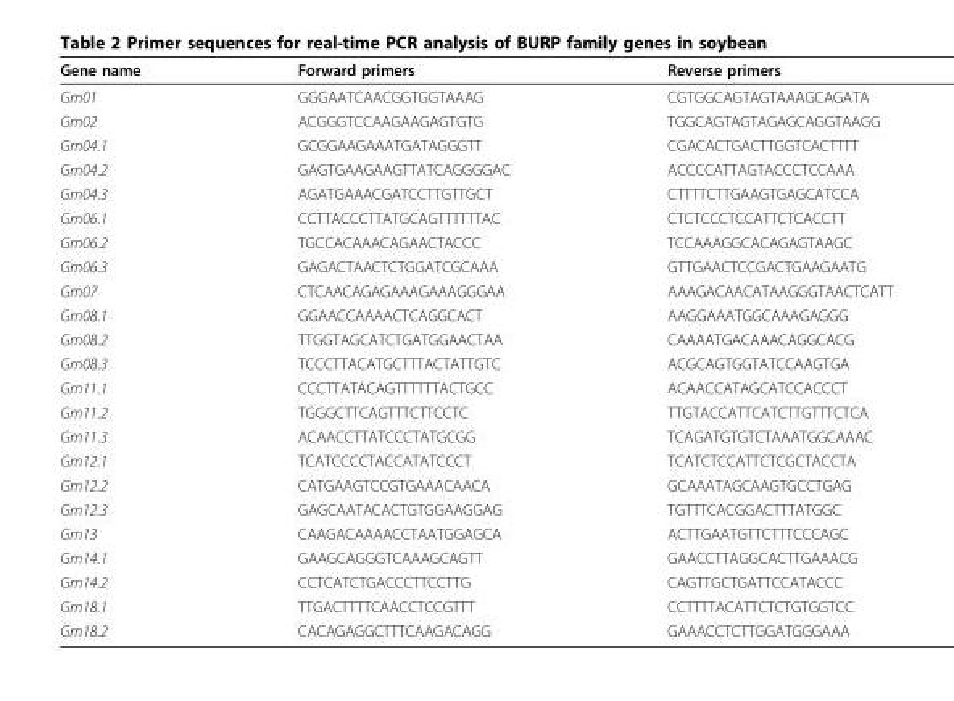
<table><thead><tr><td>Gene name</td><td>Forward primers</td><td>Reverse primers</td></tr></thead><tbody><tr><td>Gm01</td><td>GGGAATCAACGGTGGTAAAG</td><td>CGTGGCAGTAGTAAAGCAGATA</td></tr><tr><td>Gm02</td><td>ACGGGTCCAAGAAGAGTGTG</td><td>TGGCAGTAGTAGAGCAGGTAAGG</td></tr><tr><td>Gm04.1</td><td>GCGGAAGAAATGATAGGGTT</td><td>CGACACTGACTTGGTCACTTTT</td></tr><tr><td>Gm04.2</td><td>GAGTGAAGAAGTTATCAGGGGAC</td><td>ACCCCATTAGTACCCTCCAAA</td></tr><tr><td>Gm04.3</td><td>AGATGAAACGATCCTTGTTGCT</td><td>CTTTTCTTGAAGTGAGCATCCA</td></tr><tr><td>Gm06.1</td><td>CCTTACCCTTATGCAGTTTTTTAC</td><td>CTCTCCCTCCATTCTCACCTT</td></tr><tr><td>Gm06.2</td><td>TGCCACAAACAGAACTACCC</td><td>TCCAAAGGCACAGAGTAAGC</td></tr><tr><td>Gm06.3</td><td>GAGACTAACTCTGGATCGCAAA</td><td>GTTGAACTCCGACTGAAGAATG</td></tr><tr><td>Gm07</td><td>CTCAACAGAGAAAGAAAGGGAA</td><td>AAAGACAACATAAGGGTAACTCATT</td></tr><tr><td>Gm08.1</td><td>GGAACCAAAACTCAGGCACT</td><td>AAGGAAATGGCAAAGAGGG</td></tr><tr><td>Gm08.2</td><td>TTGGTAGCATCTGATGGAACTAA</td><td>CAAAATGACAAACAGGCACG</td></tr><tr><td>Gm08.3</td><td>TCCCTTACATGCTTTACTATTGTC</td><td>ACGCAGTGGTATCCAAGTGA</td></tr><tr><td>Gm11.1</td><td>CCCTTATACAGTTTTTTACTGCC</td><td>ACAACCATAGCATCCACCCT</td></tr><tr><td>Gm11.2</td><td>TGGGCTTCAGTTTCTTCCTC</td><td>TTGTACCATTCATCTTGTTTCTCA</td></tr><tr><td>Gm11.3</td><td>ACAACCTTATCCCTATGCGG</td><td>TCAGATGTGTCTAAATGGCAAAC</td></tr><tr><td>Gm12.1</td><td>TCATCCCCTACCATATCCCT</td><td>TCATCTCCATTCTCGCTACCTA</td></tr><tr><td>Gm12.2</td><td>CATGAAGTCCGTGAAACAACA</td><td>GCAAATAGCAAGTGCCTGAG</td></tr><tr><td>Gm12.3</td><td>GAGCAATACACTGTGGAAGGAG</td><td>TGTTTCACGGACTTTATGGC</td></tr><tr><td>Gm13</td><td>CAAGACAAAACCTAATGGAGCA</td><td>ACTTGAATGTTCTTTCCCAGC</td></tr><tr><td>Gm14.1</td><td>GAAGCAGGGTCAAAGCAGTT</td><td>GAACCTTAGGCACTTGAAACG</td></tr><tr><td>Gm14.2</td><td>CCTCATCTGACCCTTCCTTG</td><td>CAGTTGCTGATTCCATACCC</td></tr><tr><td>Gm18.1</td><td>TTGACTTTTCAACCTCCGTTT</td><td>CCTTTTACATTCTCTGTGGTCC</td></tr><tr><td>Gm18.2</td><td>CACAGAGGCTTTCAAGACAGG</td><td>GAAACCTCTTGGATGGGAAA</td></tr></tbody></table>